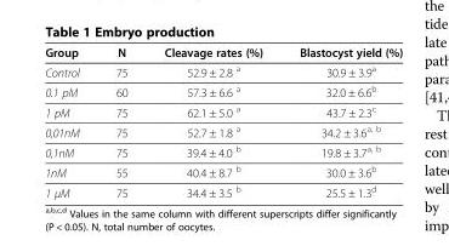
<table><thead><tr><td>Group</td><td>N</td><td>Cleavage rates (%)</td><td>Blastocyst yield (%)</td></tr></thead><tbody><tr><td>Control</td><td>75</td><td>52.9 ± 2.8 <sup>a</sup></td><td>30.9 ± 3.9<sup>a</sup></td></tr><tr><td>0.1 pM</td><td>60</td><td>57.3 ± 6.6 <sup>a</sup></td><td>32.0 ± 6.6<sup>b</sup></td></tr><tr><td>1 pM</td><td>75</td><td>62.1 ± 5.0 <sup>a</sup></td><td>43.7 ± 2.3<sup>c</sup></td></tr><tr><td>0,01nM</td><td>75</td><td>52.7 ± 1.8 <sup>a</sup></td><td>34.2 ± 3.6<sup>a, b</sup></td></tr><tr><td>0,1nM</td><td>75</td><td>39.4 ± 4.0 <sup>b</sup></td><td>19.8 ± 3.7<sup>a, b</sup></td></tr><tr><td>1nM</td><td>55</td><td>40.4 ± 8.7 <sup>b</sup></td><td>30.0 ± 3.6<sup>b</sup></td></tr><tr><td>1 μM</td><td>75</td><td>34.4 ± 3.5 <sup>b</sup></td><td>25.5 ± 1.3<sup>d</sup></td></tr></tbody></table>